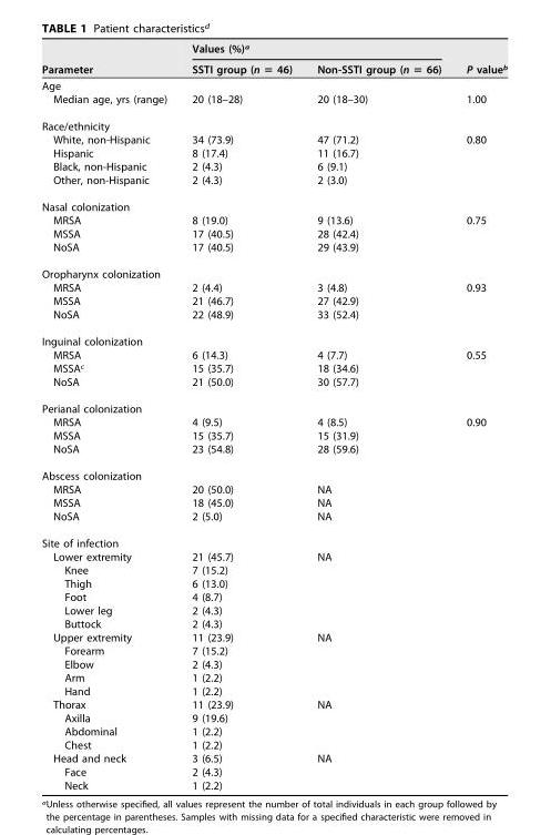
<table><thead><tr><td rowspan="2">Parameter</td><td colspan="2">Values (%)<sup>a</sup></td><td rowspan="2">P value<sup>b</sup></td></tr><tr><td>SSTI group (n = 46)</td><td>Non-SSTI group (n = 66)</td></tr></thead><tbody><tr><td colspan="4">Age</td></tr><tr><td>Median age, yrs (range)</td><td>20 (18–28)</td><td>20 (18–30)</td><td>1.00</td></tr><tr><td colspan="4">Race/ethnicity</td></tr><tr><td>White, non-Hispanic</td><td>34 (73.9)</td><td>47 (71.2)</td><td>0.80</td></tr><tr><td>Hispanic</td><td>8 (17.4)</td><td>11 (16.7)</td><td></td></tr><tr><td>Black, non-Hispanic</td><td>2 (4.3)</td><td>6 (9.1)</td><td></td></tr><tr><td>Other, non-Hispanic</td><td>2 (4.3)</td><td>2 (3.0)</td><td></td></tr><tr><td colspan="4">Nasal colonization</td></tr><tr><td>MRSA</td><td>8 (19.0)</td><td>9 (13.6)</td><td>0.75</td></tr><tr><td>MSSA</td><td>17 (40.5)</td><td>28 (42.4)</td><td></td></tr><tr><td>NoSA</td><td>17 (40.5)</td><td>29 (43.9)</td><td></td></tr><tr><td colspan="4">Oropharynx colonization</td></tr><tr><td>MRSA</td><td>2 (4.4)</td><td>3 (4.8)</td><td>0.93</td></tr><tr><td>MSSA</td><td>21 (46.7)</td><td>27 (42.9)</td><td></td></tr><tr><td>NoSA</td><td>22 (48.9)</td><td>33 (52.4)</td><td></td></tr><tr><td colspan="4">Inguinal colonization</td></tr><tr><td>MRSA</td><td>6 (14.3)</td><td>4 (7.7)</td><td>0.55</td></tr><tr><td>MSSA<sup>c</sup></td><td>15 (35.7)</td><td>18 (34.6)</td><td></td></tr><tr><td>NoSA</td><td>21 (50.0)</td><td>30 (57.7)</td><td></td></tr><tr><td colspan="4">Perianal colonization</td></tr><tr><td>MRSA</td><td>4 (9.5)</td><td>4 (8.5)</td><td>0.90</td></tr><tr><td>MSSA</td><td>15 (35.7)</td><td>15 (31.9)</td><td></td></tr><tr><td>NoSA</td><td>23 (54.8)</td><td>28 (59.6)</td><td></td></tr><tr><td colspan="4">Abscess colonization</td></tr><tr><td>MRSA</td><td>20 (50.0)</td><td>NA</td><td></td></tr><tr><td>MSSA</td><td>18 (45.0)</td><td>NA</td><td></td></tr><tr><td>NoSA</td><td>2 (5.0)</td><td>NA</td><td></td></tr><tr><td colspan="4">Site of infection</td></tr><tr><td>Lower extremity</td><td>21 (45.7)</td><td>NA</td><td></td></tr><tr><td>Knee</td><td>7 (15.2)</td><td></td><td></td></tr><tr><td>Thigh</td><td>6 (13.0)</td><td></td><td></td></tr><tr><td>Foot</td><td>4 (8.7)</td><td></td><td></td></tr><tr><td>Lower leg</td><td>2 (4.3)</td><td></td><td></td></tr><tr><td>Buttock</td><td>2 (4.3)</td><td></td><td></td></tr><tr><td>Upper extremity</td><td>11 (23.9)</td><td>NA</td><td></td></tr><tr><td>Forearm</td><td>7 (15.2)</td><td></td><td></td></tr><tr><td>Elbow</td><td>2 (4.3)</td><td></td><td></td></tr><tr><td>Arm</td><td>1 (2.2)</td><td></td><td></td></tr><tr><td>Hand</td><td>1 (2.2)</td><td></td><td></td></tr><tr><td>Thorax</td><td>11 (23.9)</td><td>NA</td><td></td></tr><tr><td>Axilla</td><td>9 (19.6)</td><td></td><td></td></tr><tr><td>Abdominal</td><td>1 (2.2)</td><td></td><td></td></tr><tr><td>Chest</td><td>1 (2.2)</td><td></td><td></td></tr><tr><td>Head and neck</td><td>3 (6.5)</td><td>NA</td><td></td></tr><tr><td>Face</td><td>2 (4.3)</td><td></td><td></td></tr><tr><td>Neck</td><td>1 (2.2)</td><td></td><td></td></tr></tbody></table>